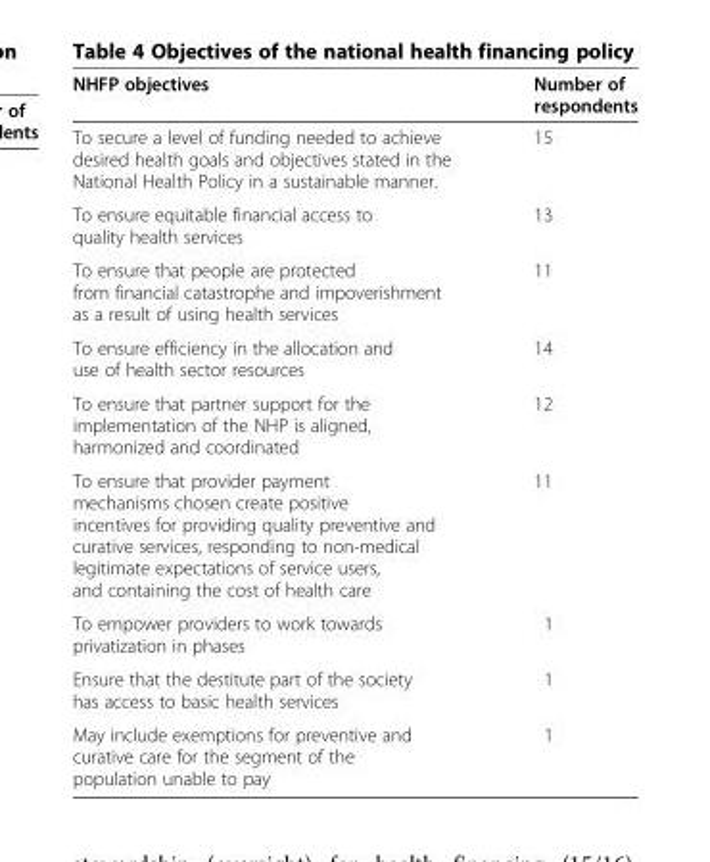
<table><thead><tr><td>NHFP objectives</td><td>Number of respondents</td></tr></thead><tbody><tr><td>To secure a level of funding needed to achieve desired health goals and objectives stated in the National Health Policy in a sustainable manner.</td><td>15</td></tr><tr><td>To ensure equitable financial access to quality health services</td><td>13</td></tr><tr><td>To ensure that people are protected from financial catastrophe and impoverishment as a result of using health services</td><td>11</td></tr><tr><td>To ensure efficiency in the allocation and use of health sector resources</td><td>14</td></tr><tr><td>To ensure that partner support for the implementation of the NHP is aligned, harmonized and coordinated</td><td>12</td></tr><tr><td>To ensure that provider payment mechanisms chosen create positive incentives for providing quality preventive and curative services, responding to non-medical legitimate expectations of service users, and containing the cost of health care</td><td>11</td></tr><tr><td>To empower providers to work towards privatization in phases</td><td>1</td></tr><tr><td>Ensure that the destitute part of the society has access to basic health services</td><td>1</td></tr><tr><td>May include exemptions for preventive and curative care for the segment of the population unable to pay</td><td>1</td></tr></tbody></table>